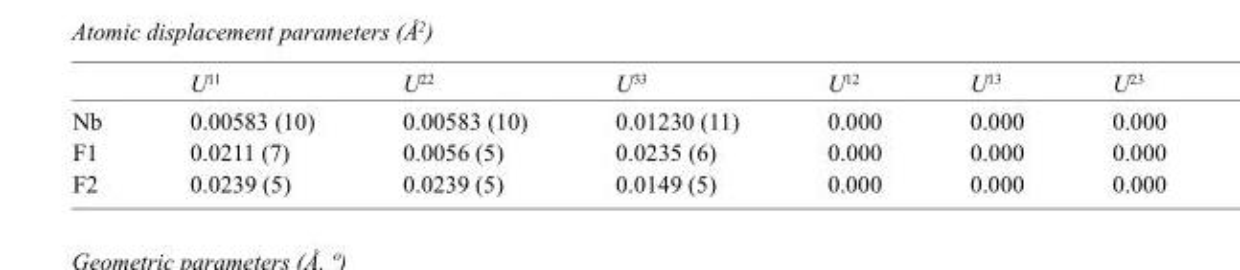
<table><thead><tr><td></td><td>U<sup>11</sup></td><td>U<sup>22</sup></td><td>U<sup>33</sup></td><td>U<sup>12</sup></td><td>U<sup>13</sup></td><td>U<sup>23</sup></td></tr></thead><tbody><tr><td>Nb</td><td>0.00583 (10)</td><td>0.00583 (10)</td><td>0.01230 (11)</td><td>0.000</td><td>0.000</td><td>0.000</td></tr><tr><td>F1</td><td>0.0211 (7)</td><td>0.0056 (5)</td><td>0.0235 (6)</td><td>0.000</td><td>0.000</td><td>0.000</td></tr><tr><td>F2</td><td>0.0239 (5)</td><td>0.0239 (5)</td><td>0.0149 (5)</td><td>0.000</td><td>0.000</td><td>0.000</td></tr></tbody></table>